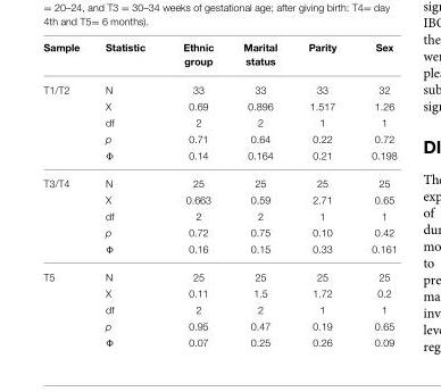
<table><thead><tr><td>Sample</td><td>Statistic</td><td>Ethnic group</td><td>Marital status</td><td>Parity</td><td>Sex</td></tr></thead><tbody><tr><td rowspan="5">T1/T2</td><td>N</td><td>33</td><td>33</td><td>33</td><td>32</td></tr><tr><td>X</td><td>0.69</td><td>0.896</td><td>1.517</td><td>1.26</td></tr><tr><td>df</td><td>2</td><td>2</td><td>1</td><td>1</td></tr><tr><td>p</td><td>0.71</td><td>0.64</td><td>0.22</td><td>0.72</td></tr><tr><td>Φ</td><td>0.14</td><td>0.164</td><td>0.21</td><td>0.198</td></tr><tr><td rowspan="5">T3/T4</td><td>N</td><td>25</td><td>25</td><td>25</td><td>25</td></tr><tr><td>X</td><td>0.663</td><td>0.59</td><td>2.71</td><td>0.65</td></tr><tr><td>df</td><td>2</td><td>2</td><td>1</td><td>1</td></tr><tr><td>p</td><td>0.72</td><td>0.75</td><td>0.10</td><td>0.42</td></tr><tr><td>Φ</td><td>0.16</td><td>0.15</td><td>0.33</td><td>0.161</td></tr><tr><td rowspan="5">T5</td><td>N</td><td>25</td><td>25</td><td>25</td><td>25</td></tr><tr><td>X</td><td>0.11</td><td>1.5</td><td>1.72</td><td>0.2</td></tr><tr><td>df</td><td>2</td><td>2</td><td>1</td><td>1</td></tr><tr><td>p</td><td>0.95</td><td>0.47</td><td>0.19</td><td>0.65</td></tr><tr><td>Φ</td><td>0.07</td><td>0.25</td><td>0.26</td><td>0.09</td></tr></tbody></table>